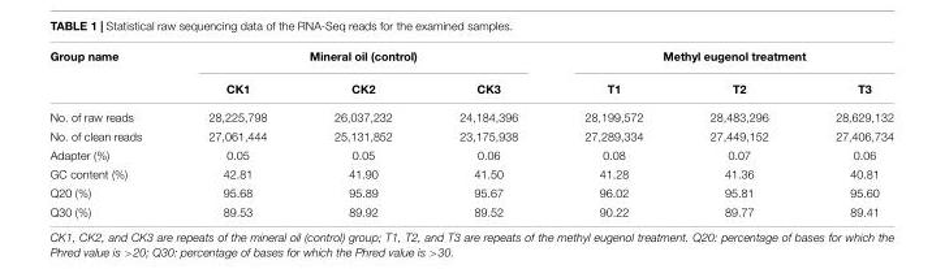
<table><thead><tr><td rowspan="2">Group name</td><td colspan="3">Mineral oil (control)</td><td colspan="3">Methyl eugenol treatment</td></tr><tr><td>CK1</td><td>CK2</td><td>CK3</td><td>T1</td><td>T2</td><td>T3</td></tr></thead><tbody><tr><td>No. of raw reads</td><td>28,225,798</td><td>26,037,232</td><td>24,184,396</td><td>28,199,572</td><td>28,483,296</td><td>28,629,132</td></tr><tr><td>No. of clean reads</td><td>27,061,444</td><td>25,131,852</td><td>23,175,938</td><td>27,289,334</td><td>27,449,152</td><td>27,406,734</td></tr><tr><td>Adapter (%)</td><td>0.05</td><td>0.05</td><td>0.06</td><td>0.08</td><td>0.07</td><td>0.06</td></tr><tr><td>GC content (%)</td><td>42.81</td><td>41.90</td><td>41.50</td><td>41.28</td><td>41.36</td><td>40.81</td></tr><tr><td>Q20 (%)</td><td>95.68</td><td>95.89</td><td>95.67</td><td>96.02</td><td>95.81</td><td>95.60</td></tr><tr><td>Q30 (%)</td><td>89.53</td><td>89.92</td><td>89.52</td><td>90.22</td><td>89.77</td><td>89.41</td></tr></tbody></table>